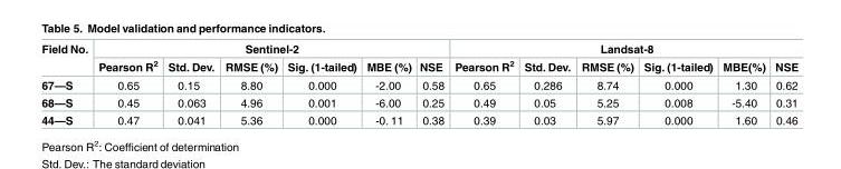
<table><thead><tr><td rowspan="2">Field No.</td><td colspan="6">Sentinel-2</td><td colspan="6">Landsat-8</td></tr><tr><td>Pearson R<sup>2</sup></td><td>Std. Dev.</td><td>RMSE (%)</td><td>Sig. (1-tailed)</td><td>MBE (%)</td><td>NSE</td><td>Pearson R<sup>2</sup></td><td>Std. Dev.</td><td>RMSE (%)</td><td>Sig. (1-tailed)</td><td>MBE(%)</td><td>NSE</td></tr></thead><tbody><tr><td>67—S</td><td>0.65</td><td>0.15</td><td>8.80</td><td>0.000</td><td>-2.00</td><td>0.58</td><td>0.65</td><td>0.286</td><td>8.74</td><td>0.000</td><td>1.30</td><td>0.62</td></tr><tr><td>68—S</td><td>0.45</td><td>0.063</td><td>4.96</td><td>0.001</td><td>-6.00</td><td>0.25</td><td>0.49</td><td>0.05</td><td>5.25</td><td>0.008</td><td>-5.40</td><td>0.31</td></tr><tr><td>44—S</td><td>0.47</td><td>0.041</td><td>5.36</td><td>0.000</td><td>-0. 11</td><td>0.38</td><td>0.39</td><td>0.03</td><td>5.97</td><td>0.000</td><td>1.60</td><td>0.46</td></tr></tbody></table>